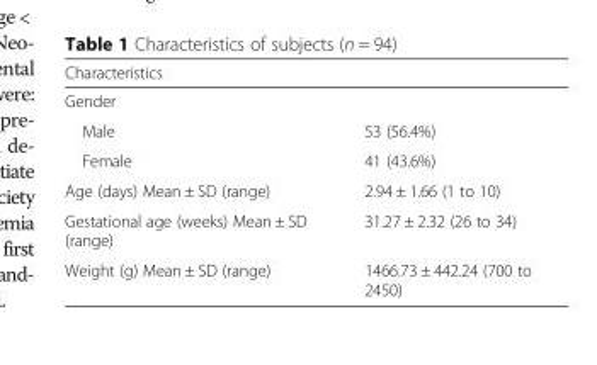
<table><thead><tr><td rowspan="2" colspan="2">Characteristics Gender</td></tr><tr></tr><tr><td>Male</td><td>53 (56.4%)</td></tr></thead><tbody><tr><td>Female</td><td>41 (43.6%)</td></tr><tr><td>Age (days) Mean ± SD (range)</td><td>2.94 ± 1.66 (1 to 10)</td></tr><tr><td>Gestational age (weeks) Mean ± SD (range)</td><td>31.27 ± 2.32 (26 to 34)</td></tr><tr><td>Weight (g) Mean ± SD (range)</td><td>1466.73 ± 442.24 (700 to 2450)</td></tr></tbody></table>